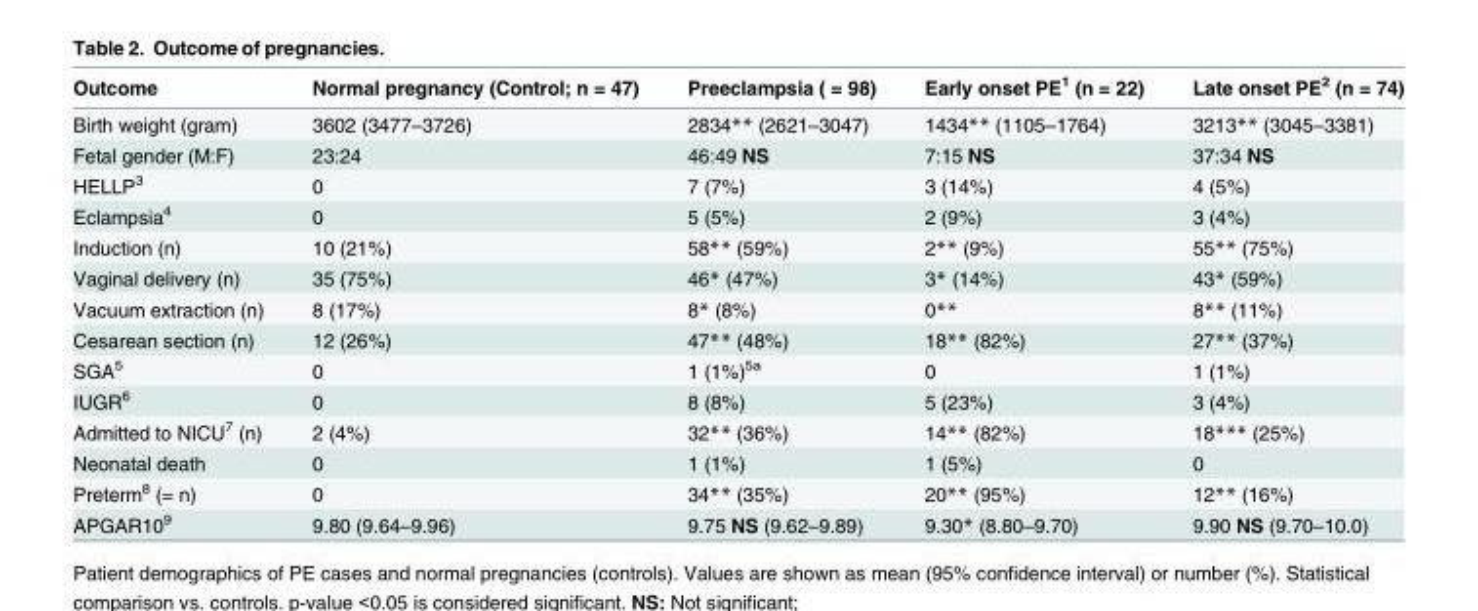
<table><thead><tr><td>Outcome</td><td>Normal pregnancy (Control; n = 47)</td><td>Preeclampsia ( = 98)</td><td>Early onset PE<sup>1</sup> (n = 22)</td><td>Late onset PE<sup>2</sup> (n = 74)</td></tr></thead><tbody><tr><td>Birth weight (gram)</td><td>3602 (3477–3726)</td><td>2834** (2621–3047)</td><td>1434** (1105–1764)</td><td>3213** (3045–3381)</td></tr><tr><td>Fetal gender (M:F)</td><td>23:24</td><td>46:49 NS</td><td>7:15 NS</td><td>37:34 NS</td></tr><tr><td>HELLP<sup>3</sup></td><td>0</td><td>7 (7%)</td><td>3 (14%)</td><td>4 (5%)</td></tr><tr><td>Eclampsia<sup>4</sup></td><td>0</td><td>5 (5%)</td><td>2 (9%)</td><td>3 (4%)</td></tr><tr><td>Induction (n)</td><td>10 (21%)</td><td>58** (59%)</td><td>2** (9%)</td><td>55** (75%)</td></tr><tr><td>Vaginal delivery (n)</td><td>35 (75%)</td><td>46* (47%)</td><td>3* (14%)</td><td>43* (59%)</td></tr><tr><td>Vacuum extraction (n)</td><td>8 (17%)</td><td>8* (8%)</td><td>0**</td><td>8** (11%)</td></tr><tr><td>Cesarean section (n)</td><td>12 (26%)</td><td>47** (48%)</td><td>18** (82%)</td><td>27** (37%)</td></tr><tr><td>SGA<sup>5</sup></td><td>0</td><td>1 (1%)<sup>5a</sup></td><td>0</td><td>1 (1%)</td></tr><tr><td>IUGR<sup>6</sup></td><td>0</td><td>8 (8%)</td><td>5 (23%)</td><td>3 (4%)</td></tr><tr><td>Admitted to NICU<sup>7</sup> (n)</td><td>2 (4%)</td><td>32** (36%)</td><td>14** (82%)</td><td>18*** (25%)</td></tr><tr><td>Neonatal death</td><td>0</td><td>1 (1%)</td><td>1 (5%)</td><td>0</td></tr><tr><td>Preterm<sup>8</sup> (= n)</td><td>0</td><td>34** (35%)</td><td>20** (95%)</td><td>12** (16%)</td></tr><tr><td>APGAR10<sup>9</sup></td><td>9.80 (9.64–9.96)</td><td>9.75 NS (9.62–9.89)</td><td>9.30* (8.80–9.70)</td><td>9.90 NS (9.70–10.0)</td></tr></tbody></table>